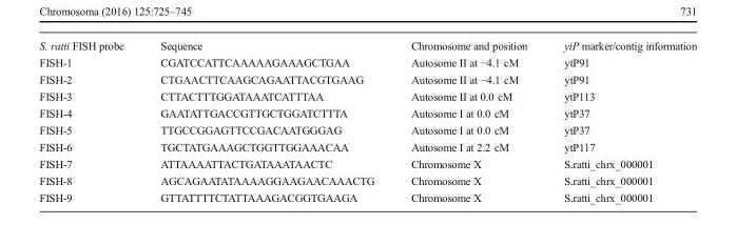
<table><tbody><tr><td>S. ratti FISH probe</td><td>Sequence</td><td>Chromosome and position</td><td>ytP marker/contig information</td></tr><tr><td>FISH-1</td><td>CGATCCATTCAAAAAGAAAGCTGAA</td><td>Autosome II at −4.1 cM</td><td>ytP91</td></tr><tr><td>FISH-2</td><td>CTGAACTTCAAGCAGAATTACGTGAAG</td><td>Autosome II at −4.1 cM</td><td>ytP91</td></tr><tr><td>FISH-3</td><td>CTTACTTTGGATAAATCATTTAA</td><td>Autosome II at 0.0 cM</td><td>ytP113</td></tr><tr><td>FISH-4</td><td>GAATATTGACCGTTGCTGGATCTTTA</td><td>Autosome I at 0.0 cM</td><td>ytP37</td></tr><tr><td>FISH-5</td><td>TTGCCGGAGTTCCGACAATGGGAG</td><td>Autosome I at 0.0 cM</td><td>ytP37</td></tr><tr><td>FISH-6</td><td>TGCTATGAAAGCTGGTTGGAAACAA</td><td>Autosome I at 2.2 cM</td><td>ytP117</td></tr><tr><td>FISH-7</td><td>ATTAAAATTACTGATAAATAACTC</td><td>Chromosome X</td><td>S.ratti_chrx_000001</td></tr><tr><td>FISH-8</td><td>AGCAGAATATAAAAGGAAGAACAAACTG</td><td>Chromosome X</td><td>S.ratti_chrx_000001</td></tr><tr><td>FISH-9</td><td>GTTATTTTCTATTAAAGACGGTGAAGA</td><td>Chromosome X</td><td>S.ratti_chrx_000001</td></tr></tbody></table>